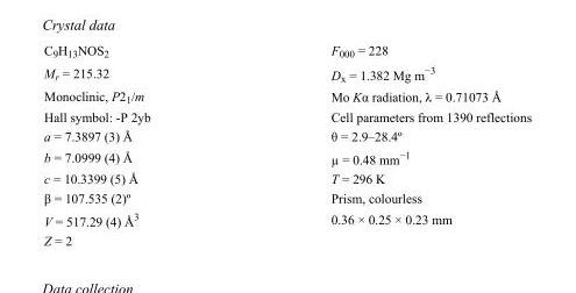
<table><tbody><tr><td>C<sub>9</sub>H<sub>13</sub>NOS<sub>2</sub></td><td>F000 = 228</td></tr><tr><td>M<sub>r</sub> = 215.32</td><td>D<sub>x</sub> = 1.382 Mg m<sup>−3</sup></td></tr><tr><td>Monoclinic, P2<sub>1</sub>/m</td><td>Mo Kα radiation, λ = 0.71073 Å</td></tr><tr><td>Hall symbol: -P 2yb</td><td>Cell parameters from 1390 reflections</td></tr><tr><td>a = 7.3897 (3) Å</td><td>θ = 2.9–28.4º</td></tr><tr><td>b = 7.0999 (4) Å</td><td>µ = 0.48 mm<sup>−1</sup></td></tr><tr><td>c = 10.3399 (5) Å</td><td>T = 296 K</td></tr><tr><td>β = 107.535 (2)º</td><td>Prism, colourless</td></tr><tr><td>V = 517.29 (4) Å<sup>3</sup></td><td>0.36 × 0.25 × 0.23 mm</td></tr><tr><td>Z = 2</td><td></td></tr></tbody></table>